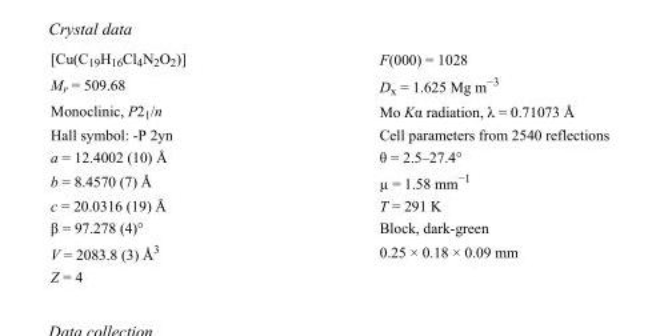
<table><tbody><tr><td>[Cu(C<sub>19</sub>H<sub>16</sub>Cl<sub>4</sub>N<sub>2</sub>O<sub>2</sub>)]</td><td>F(000) = 1028</td></tr><tr><td>M<sub>r</sub> = 509.68</td><td>D<sub>x</sub> = 1.625 Mg m<sup>−3</sup></td></tr><tr><td>Monoclinic, P2<sub>1</sub>/n</td><td>Mo Kα radiation, λ = 0.71073 Å</td></tr><tr><td>Hall symbol: -P 2yn</td><td>Cell parameters from 2540 reflections</td></tr><tr><td>a = 12.4002 (10) Å</td><td>θ = 2.5–27.4°</td></tr><tr><td>b = 8.4570 (7) Å</td><td>µ = 1.58 mm<sup>−1</sup></td></tr><tr><td>c = 20.0316 (19) Å</td><td>T = 291 K</td></tr><tr><td>β = 97.278 (4)°</td><td>Block, dark-green</td></tr><tr><td>V = 2083.8 (3) Å<sup>3</sup></td><td>0.25 × 0.18 × 0.09 mm</td></tr><tr><td>Z = 4</td><td></td></tr></tbody></table>